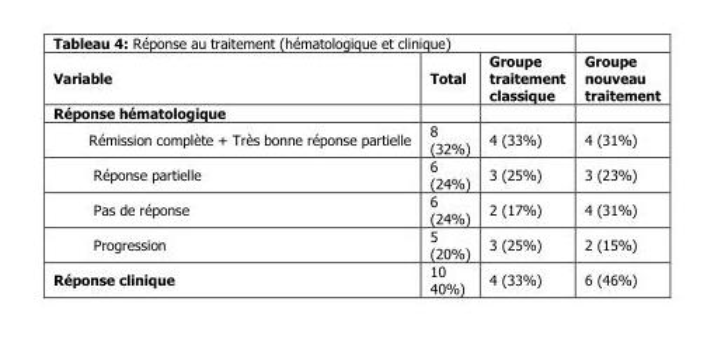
<table><thead><tr><td>Variable</td><td>Total</td><td>Groupe traitement classique</td><td>Groupe nouveau traitement</td></tr></thead><tbody><tr><td colspan="4">Réponse hématologique</td></tr><tr><td>Rémission complète + Très bonne réponse partielle</td><td>8 (32%)</td><td>4 (33%)</td><td>4 (31%)</td></tr><tr><td>Réponse partielle</td><td>6 (24%)</td><td>3 (25%)</td><td>3 (23%)</td></tr><tr><td>Pas de réponse</td><td>6 (24%)</td><td>2 (17%)</td><td>4 (31%)</td></tr><tr><td>Progression</td><td>5 (20%)</td><td>3 (25%)</td><td>2 (15%)</td></tr><tr><td>Réponse clinique</td><td>10 40%)</td><td>4 (33%)</td><td>6 (46%)</td></tr></tbody></table>